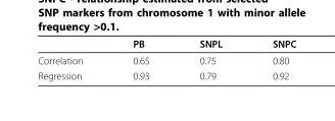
<table><thead><tr><td></td><td>PB</td><td>SNPL</td><td>SNPC</td></tr></thead><tbody><tr><td>Correlation</td><td>0.65</td><td>0.75</td><td>0.80</td></tr><tr><td>Regression</td><td>0.93</td><td>0.79</td><td>0.92</td></tr></tbody></table>